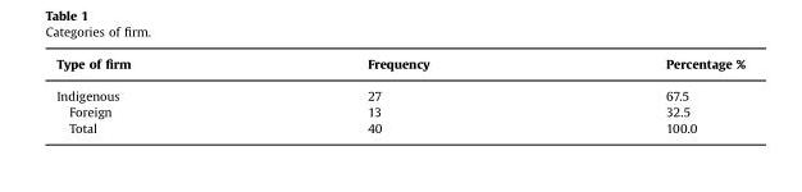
<table><thead><tr><td>Type of firm</td><td>Frequency</td><td>Percentage %</td></tr></thead><tbody><tr><td>Indigenous</td><td>27</td><td>67.5</td></tr><tr><td>Foreign</td><td>13</td><td>32.5</td></tr><tr><td>Total</td><td>40</td><td>100.0</td></tr></tbody></table>